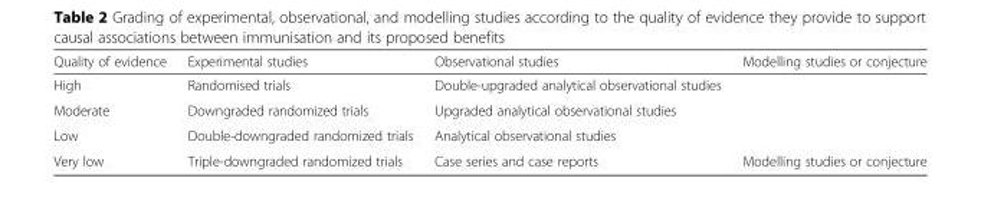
<table><thead><tr><td>Quality of evidence</td><td>Experimental studies</td><td>Observational studies</td><td>Modelling studies or conjecture</td></tr></thead><tbody><tr><td>High</td><td>Randomised trials</td><td>Double-upgraded analytical observational studies</td><td></td></tr><tr><td>Moderate</td><td>Downgraded randomized trials</td><td>Upgraded analytical observational studies</td><td></td></tr><tr><td>Low</td><td>Double-downgraded randomized trials</td><td>Analytical observational studies</td><td></td></tr><tr><td>Very low</td><td>Triple-downgraded randomized trials</td><td>Case series and case reports</td><td>Modelling studies or conjecture</td></tr></tbody></table>